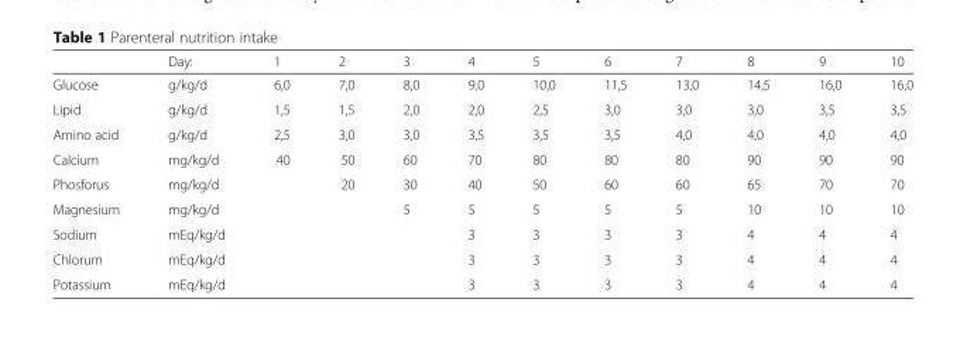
<table><thead><tr><td></td><td>Day:</td><td>1</td><td>2</td><td>3</td><td>4</td><td>5</td><td>6</td><td>7</td><td>8</td><td>9</td><td>10</td></tr></thead><tbody><tr><td>Glucose</td><td>g/kg/d</td><td>6,0</td><td>7,0</td><td>8,0</td><td>9,0</td><td>10,0</td><td>11,5</td><td>13,0</td><td>14,5</td><td>16,0</td><td>16,0</td></tr><tr><td>Lipid</td><td>g/kg/d</td><td>1,5</td><td>1,5</td><td>2,0</td><td>2,0</td><td>2,5</td><td>3,0</td><td>3,0</td><td>3,0</td><td>3,5</td><td>3,5</td></tr><tr><td>Amino acid</td><td>g/kg/d</td><td>2,5</td><td>3,0</td><td>3,0</td><td>3,5</td><td>3,5</td><td>3,5</td><td>4,0</td><td>4,0</td><td>4,0</td><td>4,0</td></tr><tr><td>Calcium</td><td>mg/kg/d</td><td>40</td><td>50</td><td>60</td><td>70</td><td>80</td><td>80</td><td>80</td><td>90</td><td>90</td><td>90</td></tr><tr><td>Phosforus</td><td>mg/kg/d</td><td></td><td>20</td><td>30</td><td>40</td><td>50</td><td>60</td><td>60</td><td>65</td><td>70</td><td>70</td></tr><tr><td>Magnesium</td><td>mg/kg/d</td><td></td><td></td><td>5</td><td>5</td><td>5</td><td>5</td><td>5</td><td>10</td><td>10</td><td>10</td></tr><tr><td>Sodium</td><td>mEq/kg/d</td><td></td><td></td><td></td><td>3</td><td>3</td><td>3</td><td>3</td><td>4</td><td>4</td><td>4</td></tr><tr><td>Chlorum</td><td>mEq/kg/d</td><td></td><td></td><td></td><td>3</td><td>3</td><td>3</td><td>3</td><td>4</td><td>4</td><td>4</td></tr><tr><td>Potassium</td><td>mEq/kg/d</td><td></td><td></td><td></td><td>3</td><td>3</td><td>3</td><td>3</td><td>4</td><td>4</td><td>4</td></tr></tbody></table>